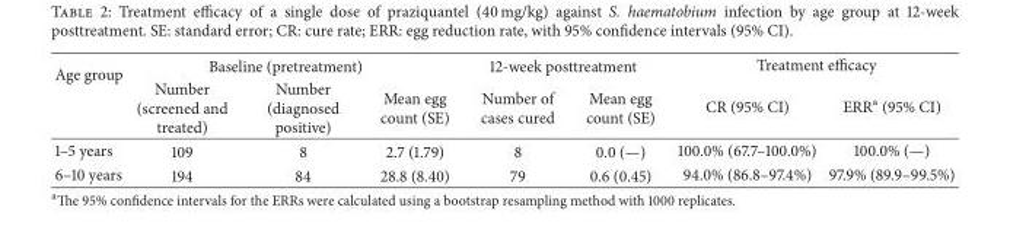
<table><thead><tr><td rowspan="2">Age group</td><td colspan="3">Baseline (pretreatment)</td><td colspan="2">12-week posttreatment</td><td colspan="2">Treatment efficacy</td></tr><tr><td>Number (screened and treated)</td><td>Number (diagnosed positive)</td><td>Mean egg count (SE)</td><td>Number of cases cured</td><td>Mean egg count (SE)</td><td>CR (95% CI)</td><td>ERR<sup>a</sup> (95% CI)</td></tr></thead><tbody><tr><td>1–5 years</td><td>109</td><td>8</td><td>2.7 (1.79)</td><td>8</td><td>0.0 (—)</td><td>100.0% (67.7–100.0%)</td><td>100.0% (—)</td></tr><tr><td>6–10 years</td><td>194</td><td>84</td><td>28.8 (8.40)</td><td>79</td><td>0.6 (0.45)</td><td>94.0% (86.8–97.4%)</td><td>97.9% (89.9–99.5%)</td></tr></tbody></table>